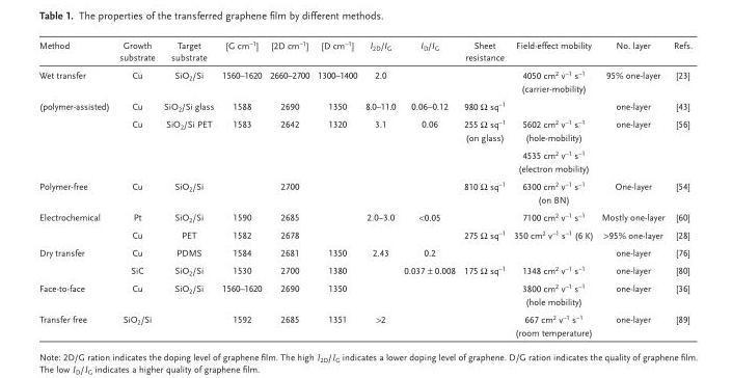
<table><thead><tr><td>Method</td><td>Growth substrate</td><td>Target substrate</td><td>[G cm <sup>−1</sup> ]</td><td>[2D cm <sup>−1</sup> ]</td><td>[D cm <sup>−1</sup> ]</td><td>I <sub>2D</sub> / I <sub>G</sub></td><td>I <sub>D</sub> / I <sub>G</sub></td><td>Sheet resistance</td><td>Field-effect mobility</td><td>No. layer</td><td>Refs.</td></tr></thead><tbody><tr><td>Wet transfer</td><td>Cu</td><td>SiO <sub>2</sub> /Si</td><td>1560–1620</td><td>2660–2700</td><td>1300–1400</td><td>2.0</td><td></td><td></td><td>4050 cm <sup>2</sup> v <sup>−1</sup> s <sup>−1</sup> (carrier-mobility)</td><td>95% one-layer</td><td>[23]</td></tr><tr><td rowspan="3">(polymer-assisted)</td><td>Cu</td><td>SiO <sub>2</sub> /Si glass</td><td>1588</td><td>2690</td><td>1350</td><td>8.0–11.0</td><td>0.06–0.12</td><td>980 Ω sq <sup>−1</sup></td><td></td><td>one-layer</td><td>[43]</td></tr><tr><td>Cu</td><td>SiO <sub>2</sub> /Si PET</td><td>1583</td><td>2642</td><td>1320</td><td>3.1</td><td>0.06</td><td>255 Ω sq <sup>−1</sup> (on glass)</td><td>5602 cm <sup>2</sup> v <sup>−1</sup> s <sup>−1</sup> (hole-mobility)</td><td>one-layer</td><td>[56]</td></tr><tr><td></td><td></td><td></td><td></td><td></td><td></td><td></td><td></td><td>4535 cm <sup>2</sup> v <sup>−1</sup> s <sup>−1</sup> (electron mobility)</td><td></td><td></td></tr><tr><td>Polymer-free</td><td>Cu</td><td>SiO <sub>2</sub> /Si</td><td></td><td>2700</td><td></td><td></td><td></td><td>810 Ω sq <sup>−1</sup></td><td>6300 cm <sup>2</sup> v <sup>−1</sup> s <sup>−1</sup> (on BN)</td><td>One-layer</td><td>[54]</td></tr><tr><td rowspan="2">Electrochemical</td><td>Pt</td><td>SiO <sub>2</sub> /Si</td><td>1590</td><td>2685</td><td></td><td>2.0–3.0</td><td>&lt;0.05</td><td></td><td>7100 cm <sup>2</sup> v <sup>−1</sup> s <sup>−1</sup></td><td>Mostly one-layer</td><td>[60]</td></tr><tr><td>Cu</td><td>PET</td><td>1582</td><td>2678</td><td></td><td></td><td></td><td>275 Ω sq <sup>−1</sup></td><td>350 cm <sup>2</sup> v <sup>−1</sup> s <sup>−1</sup> (6 K)</td><td>&gt;95% one-layer</td><td>[28]</td></tr><tr><td rowspan="2">Dry transfer</td><td>Cu</td><td>PDMS</td><td>1584</td><td>2681</td><td>1350</td><td>2.43</td><td>0.2</td><td></td><td></td><td>one-layer</td><td>[76]</td></tr><tr><td>SiC</td><td>SiO <sub>2</sub> /Si</td><td>1530</td><td>2700</td><td>1380</td><td></td><td>0.037 ± 0.008</td><td>175 Ω sq <sup>−1</sup></td><td>1348 cm <sup>2</sup> v <sup>−1</sup> s <sup>−1</sup></td><td>one-layer</td><td>[80]</td></tr><tr><td>Face-to-face</td><td>Cu</td><td>SiO <sub>2</sub> /Si</td><td>1560–1620</td><td>2690</td><td>1350</td><td></td><td></td><td></td><td>3800 cm <sup>2</sup> v <sup>−1</sup> s <sup>−1</sup> (hole mobility)</td><td>one-layer</td><td>[36]</td></tr><tr><td>Transfer free</td><td>SiO <sub>2</sub> /Si</td><td></td><td>1592</td><td>2685</td><td>1351</td><td>&gt;2</td><td></td><td></td><td>667 cm <sup>2</sup> v <sup>−1</sup> s <sup>−1</sup> (room temperature)</td><td>one-layer</td><td>[89]</td></tr></tbody></table>